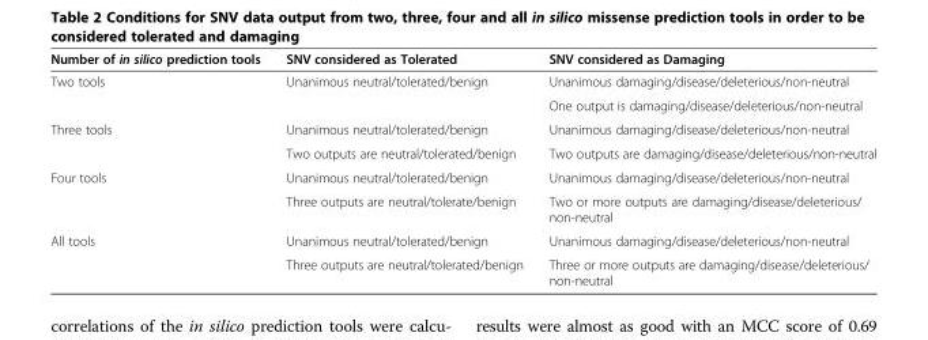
<table><thead><tr><td>Number of in silico prediction tools</td><td>SNV considered as Tolerated</td><td>SNV considered as Damaging</td></tr></thead><tbody><tr><td rowspan="2">Two tools</td><td>Unanimous neutral/tolerated/benign</td><td>Unanimous damaging/disease/deleterious/non-neutral</td></tr><tr><td></td><td>One output is damaging/disease/deleterious/non-neutral</td></tr><tr><td rowspan="2">Three tools</td><td>Unanimous neutral/tolerated/benign</td><td>Unanimous damaging/disease/deleterious/non-neutral</td></tr><tr><td>Two outputs are neutral/tolerated/benign</td><td>Two outputs are damaging/disease/deleterious/non-neutral</td></tr><tr><td rowspan="2">Four tools</td><td>Unanimous neutral/tolerated/benign</td><td>Unanimous damaging/disease/deleterious/non-neutral</td></tr><tr><td>Three outputs are neutral/tolerate/benign</td><td>Two or more outputs are damaging/disease/deleterious/ non-neutral</td></tr><tr><td rowspan="2">All tools</td><td>Unanimous neutral/tolerated/benign</td><td>Unanimous damaging/disease/deleterious/non-neutral</td></tr><tr><td>Three outputs are neutral/tolerated/benign</td><td>Three or more outputs are damaging/disease/deleterious/ non-neutral</td></tr></tbody></table>